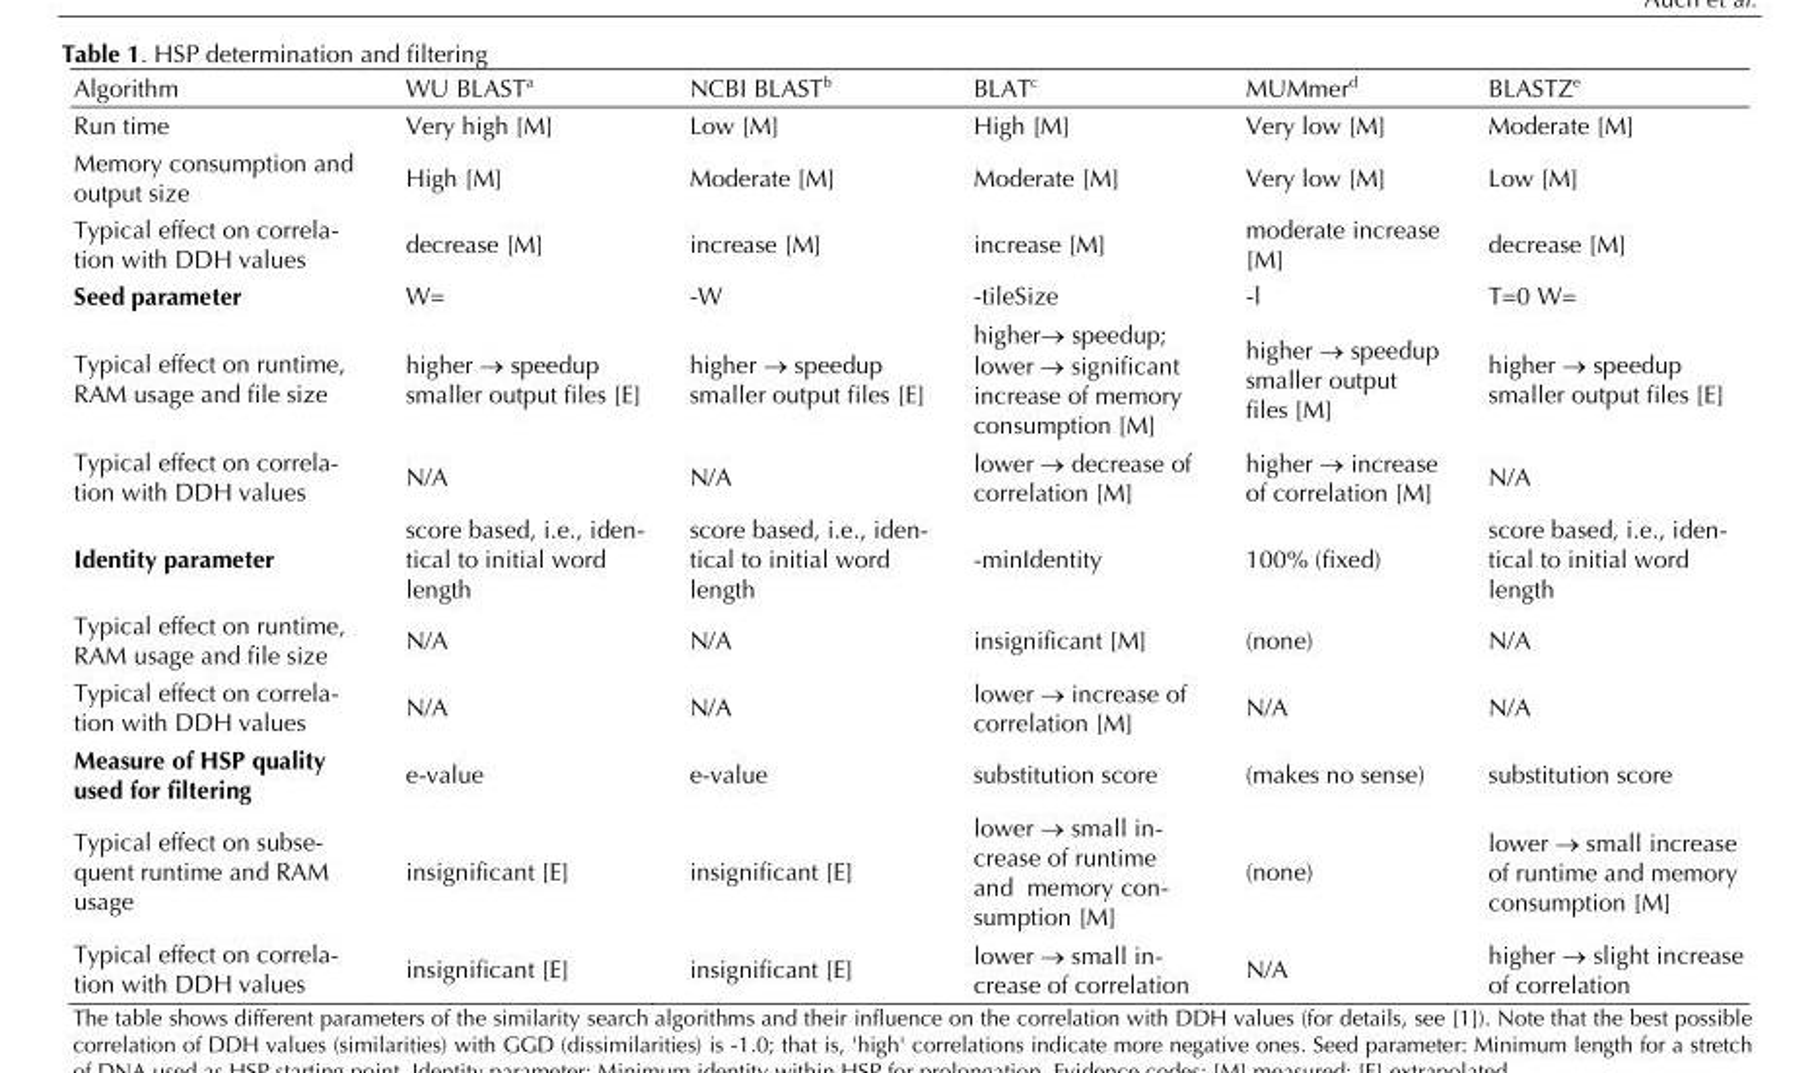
<table><thead><tr><td>Algorithm</td><td>WU BLAST<sup>a</sup></td><td>NCBI BLAST<sup>b</sup></td><td>BLAT<sup>c</sup></td><td>MUMmer<sup>d</sup></td><td>BLASTZ<sup>e</sup></td></tr></thead><tbody><tr><td>Run time</td><td>Very high [M]</td><td>Low [M]</td><td>High [M]</td><td>Very low [M]</td><td>Moderate [M]</td></tr><tr><td>Memory consumption and output size</td><td>High [M]</td><td>Moderate [M]</td><td>Moderate [M]</td><td>Very low [M]</td><td>Low [M]</td></tr><tr><td>Typical effect on correla- tion with DDH values</td><td>decrease [M]</td><td>increase [M]</td><td>increase [M]</td><td>moderate increase [M]</td><td>decrease [M]</td></tr><tr><td>Seed parameter</td><td>W=</td><td>-W</td><td>-tileSize</td><td>-l</td><td>T=0 W=</td></tr><tr><td>Typical effect on runtime, RAM usage and file size</td><td>higher → speedup smaller output files [E]</td><td>higher → speedup smaller output files [E]</td><td>higher→ speedup; lower → significant increase of memory consumption [M]</td><td>higher → speedup smaller output files [M]</td><td>higher → speedup smaller output files [E]</td></tr><tr><td>Typical effect on correla- tion with DDH values</td><td>N/A</td><td>N/A</td><td>lower → decrease of correlation [M]</td><td>higher → increase of correlation [M]</td><td>N/A</td></tr><tr><td>Identity parameter</td><td>score based, i.e., iden- tical to initial word length</td><td>score based, i.e., iden- tical to initial word length</td><td>-minIdentity</td><td>100% (fixed)</td><td>score based, i.e., iden- tical to initial word length</td></tr><tr><td>Typical effect on runtime, RAM usage and file size</td><td>N/A</td><td>N/A</td><td>insignificant [M]</td><td>(none)</td><td>N/A</td></tr><tr><td>Typical effect on correla- tion with DDH values</td><td>N/A</td><td>N/A</td><td>lower → increase of correlation [M]</td><td>N/A</td><td>N/A</td></tr><tr><td>Measure of HSP quality used for filtering</td><td>e-value</td><td>e-value</td><td>substitution score</td><td>(makes no sense)</td><td>substitution score</td></tr><tr><td>Typical effect on subse- quent runtime and RAM usage</td><td>insignificant [E]</td><td>insignificant [E]</td><td>lower → small in- crease of runtime and memory con- sumption [M]</td><td>(none)</td><td>lower → small increase of runtime and memory consumption [M]</td></tr><tr><td>Typical effect on correla- tion with DDH values</td><td>insignificant [E]</td><td>insignificant [E]</td><td>lower → small in- crease of correlation</td><td>N/A</td><td>higher → slight increase of correlation</td></tr></tbody></table>